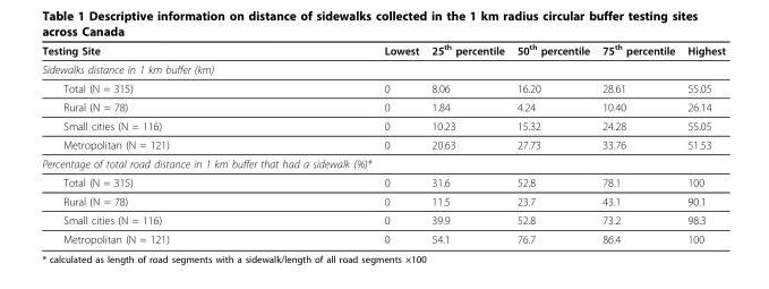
<table><thead><tr><td>Testing Site</td><td>Lowest</td><td>25<sup>th</sup> percentile</td><td>50<sup>th</sup> percentile</td><td>75<sup>th</sup> percentile</td><td>Highest</td></tr></thead><tbody><tr><td colspan="6">Sidewalks distance in 1 km buffer (km)</td></tr><tr><td>Total (N = 315)</td><td>0</td><td>8.06</td><td>16.20</td><td>28.61</td><td>55.05</td></tr><tr><td>Rural (N = 78)</td><td>0</td><td>1.84</td><td>4.24</td><td>10.40</td><td>26.14</td></tr><tr><td>Small cities (N = 116)</td><td>0</td><td>10.23</td><td>15.32</td><td>24.28</td><td>55.05</td></tr><tr><td>Metropolitan (N = 121)</td><td>0</td><td>20.63</td><td>27.73</td><td>33.76</td><td>51.53</td></tr><tr><td colspan="6">Percentage of total road distance in 1 km buffer that had a sidewalk (%)*</td></tr><tr><td>Total (N = 315)</td><td>0</td><td>31.6</td><td>52.8</td><td>78.1</td><td>100</td></tr><tr><td>Rural (N = 78)</td><td>0</td><td>11.5</td><td>23.7</td><td>43.1</td><td>90.1</td></tr><tr><td>Small cities (N = 116)</td><td>0</td><td>39.9</td><td>52.8</td><td>73.2</td><td>98.3</td></tr><tr><td>Metropolitan (N = 121)</td><td>0</td><td>54.1</td><td>76.7</td><td>86.4</td><td>100</td></tr></tbody></table>